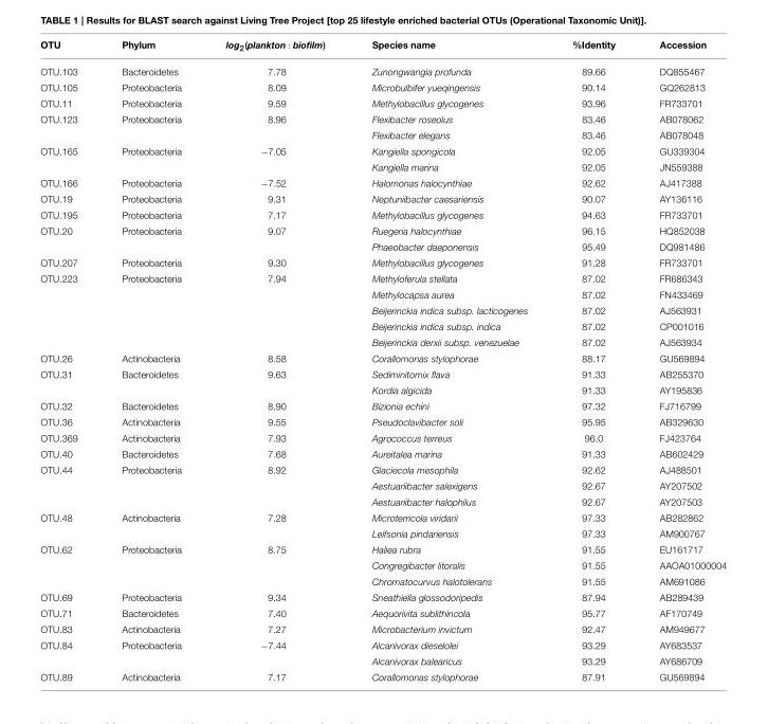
<table><thead><tr><td>OTU</td><td>Phylum</td><td>log<sub>2</sub>(plankton : biofilm)</td><td>Species name</td><td>%Identity</td><td>Accession</td></tr></thead><tbody><tr><td>OTU.103</td><td>Bacteroidetes</td><td>7.78</td><td>Zunongwangia profunda</td><td>89.66</td><td>DQ855467</td></tr><tr><td>OTU.105</td><td>Proteobacteria</td><td>8.09</td><td>Microbulbifer yueqingensis</td><td>90.14</td><td>GQ262813</td></tr><tr><td>OTU.11</td><td>Proteobacteria</td><td>9.59</td><td>Methylobacillus glycogenes</td><td>93.96</td><td>FR733701</td></tr><tr><td rowspan="2">OTU.123</td><td>Proteobacteria</td><td>8.96</td><td>Flexibacter roseolus</td><td>83.46</td><td>AB078062</td></tr><tr><td></td><td></td><td>Flexibacter elegans</td><td>83.46</td><td>AB078048</td></tr><tr><td rowspan="2">OTU.165</td><td>Proteobacteria</td><td>−7.05</td><td>Kangiella spongicola</td><td>92.05</td><td>GU339304</td></tr><tr><td></td><td></td><td>Kangiella marina</td><td>92.05</td><td>JN559388</td></tr><tr><td>OTU.166</td><td>Proteobacteria</td><td>−7.52</td><td>Halomonas halocynthiae</td><td>92.62</td><td>AJ417388</td></tr><tr><td>OTU.19</td><td>Proteobacteria</td><td>9.31</td><td>Neptuniibacter caesariensis</td><td>90.07</td><td>AY136116</td></tr><tr><td>OTU.195</td><td>Proteobacteria</td><td>7.17</td><td>Methylobacillus glycogenes</td><td>94.63</td><td>FR733701</td></tr><tr><td rowspan="2">OTU.20</td><td>Proteobacteria</td><td>9.07</td><td>Ruegeria halocynthiae</td><td>96.15</td><td>HQ852038</td></tr><tr><td></td><td></td><td>Phaeobacter daeponensis</td><td>95.49</td><td>DQ981486</td></tr><tr><td>OTU.207</td><td>Proteobacteria</td><td>9.30</td><td>Methylobacillus glycogenes</td><td>91.28</td><td>FR733701</td></tr><tr><td rowspan="5">OTU.223</td><td>Proteobacteria</td><td>7.94</td><td>Methyloferula stellata</td><td>87.02</td><td>FR686343</td></tr><tr><td></td><td></td><td>Methylocapsa aurea</td><td>87.02</td><td>FN433469</td></tr><tr><td></td><td></td><td>Beijerinckia indica subsp. lacticogenes</td><td>87.02</td><td>AJ563931</td></tr><tr><td></td><td></td><td>Beijerinckia indica subsp. indica</td><td>87.02</td><td>CP001016</td></tr><tr><td></td><td></td><td>Beijerinckia derxii subsp. venezuelae</td><td>87.02</td><td>AJ563934</td></tr><tr><td>OTU.26</td><td>Actinobacteria</td><td>8.58</td><td>Corallomonas stylophorae</td><td>88.17</td><td>GU569894</td></tr><tr><td rowspan="2">OTU.31</td><td>Bacteroidetes</td><td>9.63</td><td>Sediminitomix flava</td><td>91.33</td><td>AB255370</td></tr><tr><td></td><td></td><td>Kordia algicida</td><td>91.33</td><td>AY195836</td></tr><tr><td>OTU.32</td><td>Bacteroidetes</td><td>8.90</td><td>Bizionia echini</td><td>97.32</td><td>FJ716799</td></tr><tr><td>OTU.36</td><td>Actinobacteria</td><td>9.55</td><td>Pseudoclavibacter soli</td><td>95.95</td><td>AB329630</td></tr><tr><td>OTU.369</td><td>Actinobacteria</td><td>7.93</td><td>Agrococcus terreus</td><td>96.0</td><td>FJ423764</td></tr><tr><td>OTU.40</td><td>Bacteroidetes</td><td>7.68</td><td>Aureitalea marina</td><td>91.33</td><td>AB602429</td></tr><tr><td rowspan="3">OTU.44</td><td>Proteobacteria</td><td>8.92</td><td>Glaciecola mesophila</td><td>92.62</td><td>AJ488501</td></tr><tr><td></td><td></td><td>Aestuariibacter salexigens</td><td>92.67</td><td>AY207502</td></tr><tr><td></td><td></td><td>Aestuariibacter halophilus</td><td>92.67</td><td>AY207503</td></tr><tr><td rowspan="2">OTU.48</td><td>Actinobacteria</td><td>7.28</td><td>Microterricola viridarii</td><td>97.33</td><td>AB282862</td></tr><tr><td></td><td></td><td>Leifsonia pindariensis</td><td>97.33</td><td>AM900767</td></tr><tr><td rowspan="3">OTU.62</td><td>Proteobacteria</td><td>8.75</td><td>Haliea rubra</td><td>91.55</td><td>EU161717</td></tr><tr><td></td><td></td><td>Congregibacter litoralis</td><td>91.55</td><td>AAOA01000004</td></tr><tr><td></td><td></td><td>Chromatocurvus halotolerans</td><td>91.55</td><td>AM691086</td></tr><tr><td>OTU.69</td><td>Proteobacteria</td><td>9.34</td><td>Sneathiella glossodoripedis</td><td>87.94</td><td>AB289439</td></tr><tr><td>OTU.71</td><td>Bacteroidetes</td><td>7.40</td><td>Aequorivita sublithincola</td><td>95.77</td><td>AF170749</td></tr><tr><td>OTU.83</td><td>Actinobacteria</td><td>7.27</td><td>Microbacterium invictum</td><td>92.47</td><td>AM949677</td></tr><tr><td rowspan="2">OTU.84</td><td>Proteobacteria</td><td>−7.44</td><td>Alcanivorax dieselolei</td><td>93.29</td><td>AY683537</td></tr><tr><td></td><td></td><td>Alcanivorax balearicus</td><td>93.29</td><td>AY686709</td></tr><tr><td>OTU.89</td><td>Actinobacteria</td><td>7.17</td><td>Corallomonas stylophorae</td><td>87.91</td><td>GU569894</td></tr></tbody></table>